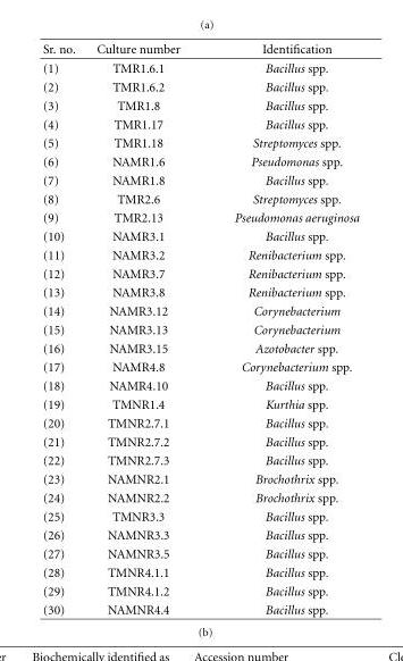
<table><thead><tr><td>Sr. no.</td><td>Culture number</td><td>Identification</td></tr></thead><tbody><tr><td>(1)</td><td>TMR1.6.1</td><td>Bacillus spp.</td></tr><tr><td>(2)</td><td>TMR1.6.2</td><td>Bacillus spp.</td></tr><tr><td>(3)</td><td>TMR1.8</td><td>Bacillus spp.</td></tr><tr><td>(4)</td><td>TMR1.17</td><td>Bacillus spp.</td></tr><tr><td>(5)</td><td>TMR1.18</td><td>Streptomyces spp.</td></tr><tr><td>(6)</td><td>NAMR1.6</td><td>Pseudomonas spp.</td></tr><tr><td>(7)</td><td>NAMR1.8</td><td>Bacillus spp.</td></tr><tr><td>(8)</td><td>TMR2.6</td><td>Streptomyces spp.</td></tr><tr><td>(9)</td><td>TMR2.13</td><td>Pseudomonas aeruginosa</td></tr><tr><td>(10)</td><td>NAMR3.1</td><td>Bacillus spp.</td></tr><tr><td>(11)</td><td>NAMR3.2</td><td>Renibacterium spp.</td></tr><tr><td>(12)</td><td>NAMR3.7</td><td>Renibacterium spp.</td></tr><tr><td>(13)</td><td>NAMR3.8</td><td>Renibacterium spp.</td></tr><tr><td>(14)</td><td>NAMR3.12</td><td>Corynebacterium</td></tr><tr><td>(15)</td><td>NAMR3.13</td><td>Corynebacterium</td></tr><tr><td>(16)</td><td>NAMR3.15</td><td>Azotobacter spp.</td></tr><tr><td>(17)</td><td>NAMR4.8</td><td>Corynebacterium spp.</td></tr><tr><td>(18)</td><td>NAMR4.10</td><td>Bacillus spp.</td></tr><tr><td>(19)</td><td>TMNR1.4</td><td>Kurthia spp.</td></tr><tr><td>(20)</td><td>TMNR2.7.1</td><td>Bacillus spp.</td></tr><tr><td>(21)</td><td>TMNR2.7.2</td><td>Bacillus spp.</td></tr><tr><td>(22)</td><td>TMNR2.7.3</td><td>Bacillus spp.</td></tr><tr><td>(23)</td><td>NAMNR2.1</td><td>Brochothrix spp.</td></tr><tr><td>(24)</td><td>NAMNR2.2</td><td>Brochothrix spp.</td></tr><tr><td>(25)</td><td>TMNR3.3</td><td>Bacillus spp.</td></tr><tr><td>(26)</td><td>NAMNR3.3</td><td>Bacillus spp.</td></tr><tr><td>(27)</td><td>NAMNR3.5</td><td>Bacillus spp.</td></tr><tr><td>(28)</td><td>TMNR4.1.1</td><td>Bacillus spp.</td></tr><tr><td>(29)</td><td>TMNR4.1.2</td><td>Bacillus spp.</td></tr><tr><td>(30)</td><td>NAMNR4.4</td><td>Bacillus spp.</td></tr></tbody></table>